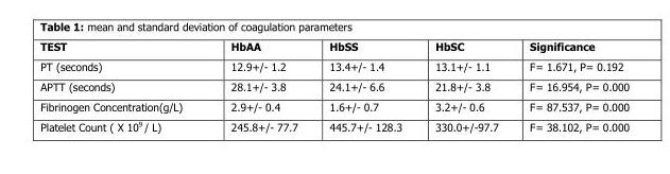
<table><thead><tr><td>TEST</td><td>HbAA</td><td>HbSS</td><td>HbSC</td><td>Significance</td></tr></thead><tbody><tr><td>PT (seconds)</td><td>12.9+/- 1.2</td><td>13.4+/- 1.4</td><td>13.1+/- 1.1</td><td>F= 1.671, P= 0.192</td></tr><tr><td>APTT (seconds)</td><td>28.1+/- 3.8</td><td>24.1+/- 6.6</td><td>21.8+/- 3.8</td><td>F= 16.954, P= 0.000</td></tr><tr><td>Fibrinogen Concentration(g/L)</td><td>2.9+/- 0.4</td><td>1.6+/- 0.7</td><td>3.2+/- 0.6</td><td>F= 87.537, P= 0.000</td></tr><tr><td>Platelet Count ( X 10<sup>9</sup> / L)</td><td>245.8+/- 77.7</td><td>445.7+/- 128.3</td><td>330.0+/-97.7</td><td>F= 38.102, P= 0.000</td></tr></tbody></table>